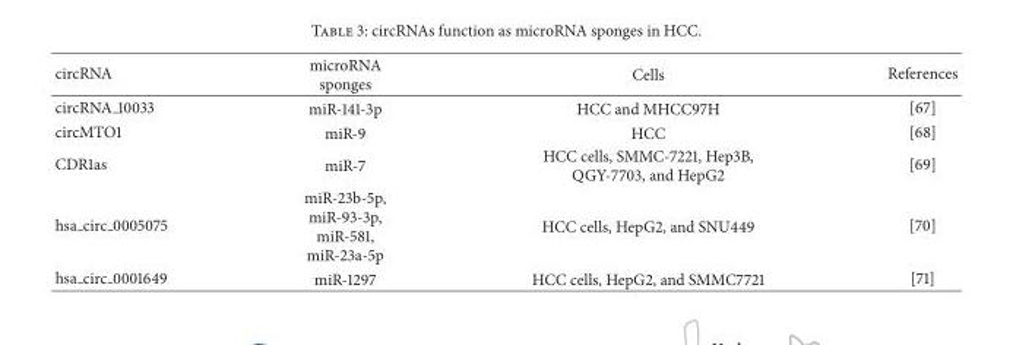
<table><thead><tr><td>circRNA</td><td>microRNA sponges</td><td>Cells</td><td>References</td></tr></thead><tbody><tr><td>circRNA 10033</td><td>miR-141-3p</td><td>HCC and MHCC97H</td><td>[67]</td></tr><tr><td>circMTO1</td><td>miR-9</td><td>HCC</td><td>[68]</td></tr><tr><td>CDR1as</td><td>miR-7</td><td>HCC cells, SMMC-7221, Hep3B, QGY-7703, and HepG2</td><td>[69]</td></tr><tr><td>hsa <sub>circ</sub> 0005075</td><td>miR-23b-5p, miR-93-3p, miR-581, miR-23a-5p</td><td>HCC cells, HepG2, and SNU449</td><td>[70]</td></tr><tr><td>hsa <sub>circ</sub> 0001649</td><td>miR-1297</td><td>HCC cells, HepG2, and SMMC7721</td><td>[71]</td></tr></tbody></table>